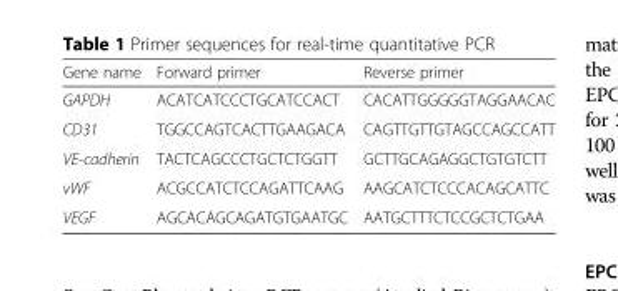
<table><thead><tr><td>Gene name</td><td>Forward primer</td><td>Reverse primer</td></tr></thead><tbody><tr><td>GAPDH</td><td>ACATCATCCCTGCATCCACT</td><td>CACATTGGGGGTAGGAACAC</td></tr><tr><td>CD31</td><td>TGGCCAGTCACTTGAAGACA</td><td>CAGTTGTTGTAGCCAGCCATT</td></tr><tr><td>VE-cadherin</td><td>TACTCAGCCCTGCTCTGGTT</td><td>GCTTGCAGAGGCTGTGTCTT</td></tr><tr><td>vWF</td><td>ACGCCATCTCCAGATTCAAG</td><td>AAGCATCTCCCACAGCATTC</td></tr><tr><td>VEGF</td><td>AGCACAGCAGATGTGAATGC</td><td>AATGCTTTCTCCGCTCTGAA</td></tr></tbody></table>